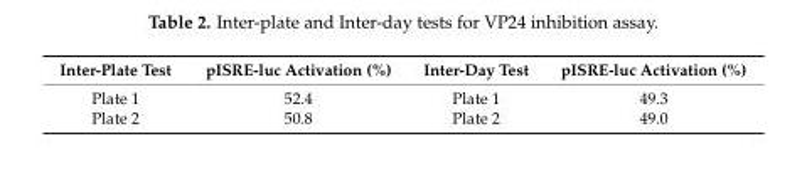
<table><thead><tr><td>Inter-Plate Test</td><td>pISRE-luc Activation (%)</td><td>Inter-Day Test</td><td>pISRE-luc Activation (%)</td></tr></thead><tbody><tr><td>Plate 1</td><td>52.4</td><td>Plate 1</td><td>49.3</td></tr><tr><td>Plate 2</td><td>50.8</td><td>Plate 2</td><td>49.0</td></tr></tbody></table>